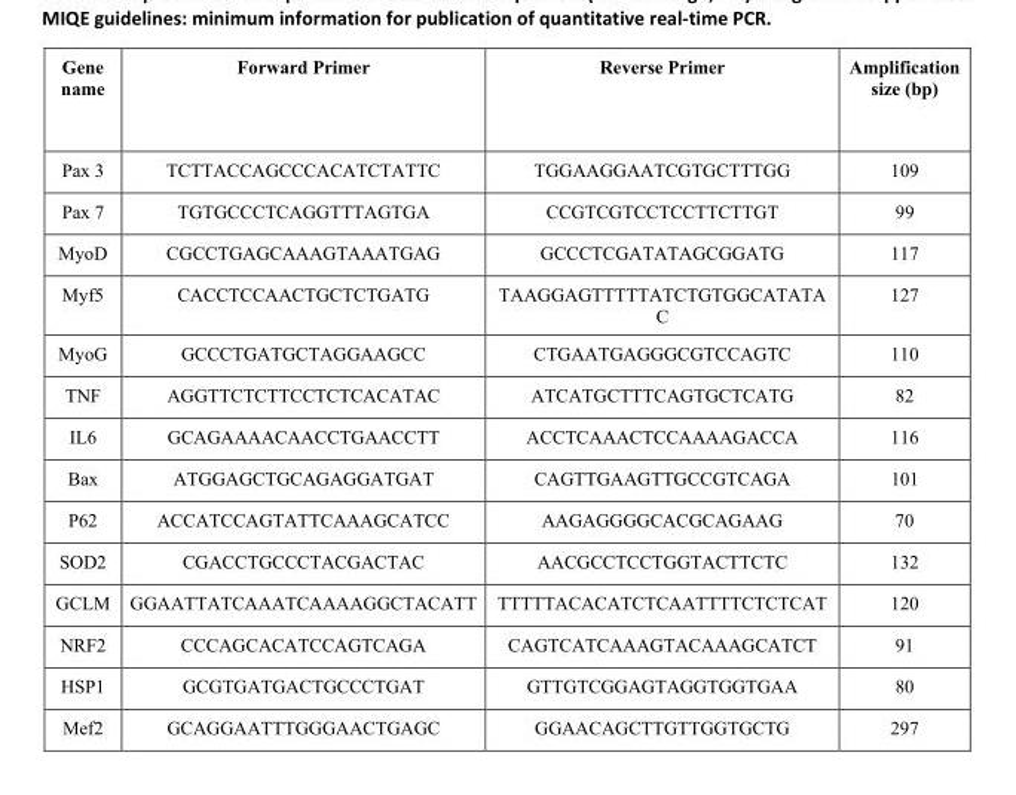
<table><thead><tr><td>Gene name</td><td>Forward Primer</td><td>Reverse Primer</td><td>Amplification size (bp)</td></tr></thead><tbody><tr><td>Pax 3</td><td>TCTTACCAGCCCACATCTATTC</td><td>TGGAAGGAATCGTGCTTTGG</td><td>109</td></tr><tr><td>Pax 7</td><td>TGTGCCCTCAGGTTTAGTGA</td><td>CCGTCGTCCTCCTTCTTGT</td><td>99</td></tr><tr><td>MyoD</td><td>CGCCTGAGCAAAGTAAATGAG</td><td>GCCCTCGATATAGCGGATG</td><td>117</td></tr><tr><td>Myf5</td><td>CACCTCCAACTGCTCTGATG</td><td>TAAGGAGTTTTTATCTGTGGCATATA C</td><td>127</td></tr><tr><td>MyoG</td><td>GCCCTGATGCTAGGAAGCC</td><td>CTGAATGAGGGCGTCCAGTC</td><td>110</td></tr><tr><td>TNF</td><td>AGGTTCTCTTCCTCTCACATAC</td><td>ATCATGCTTTCAGTGCTCATG</td><td>82</td></tr><tr><td>IL6</td><td>GCAGAAAACAACCTGAACCTT</td><td>ACCTCAAACTCCAAAAGACCA</td><td>116</td></tr><tr><td>Bax</td><td>ATGGAGCTGCAGAGGATGAT</td><td>CAGTTGAAGTTGCCGTCAGA</td><td>101</td></tr><tr><td>P62</td><td>ACCATCCAGTATTCAAAGCATCC</td><td>AAGAGGGGCACGCAGAAG</td><td>70</td></tr><tr><td>SOD2</td><td>CGACCTGCCCTACGACTAC</td><td>AACGCCTCCTGGTACTTCTC</td><td>132</td></tr><tr><td>GCLM</td><td>GGAATTATCAAATCAAAAGGCTACATT</td><td>TTTTTACACATCTCAATTTTCTCTCAT</td><td>120</td></tr><tr><td>NRF2</td><td>CCCAGCACATCCAGTCAGA</td><td>CAGTCATCAAAGTACAAAGCATCT</td><td>91</td></tr><tr><td>HSP1</td><td>GCGTGATGACTGCCCTGAT</td><td>GTTGTCGGAGTAGGTGGTGAA</td><td>80</td></tr><tr><td>Mef2</td><td>GCAGGAATTTGGGAACTGAGC</td><td>GGAACAGCTTGTTGGTGCTG</td><td>297</td></tr></tbody></table>